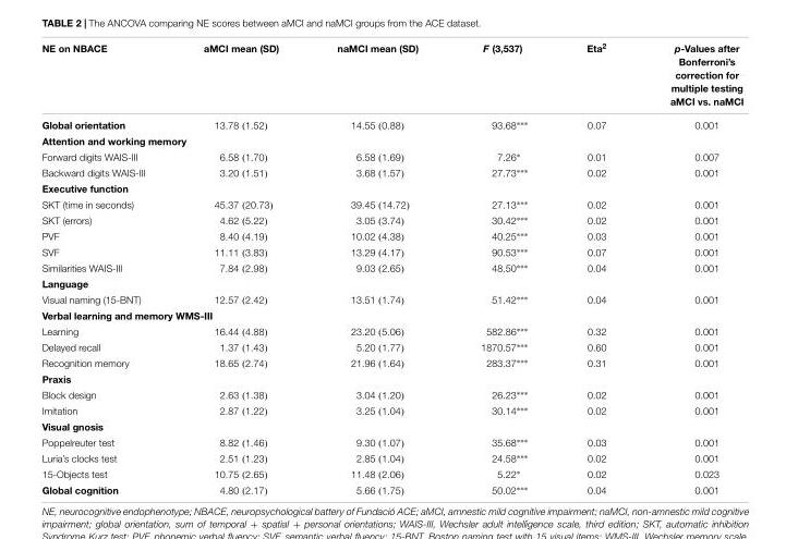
<table><thead><tr><td>NE on NBACE</td><td>aMCI mean (SD)</td><td>naMCI mean (SD)</td><td>F (3,537)</td><td>Eta<sup>2</sup></td><td>p-Values after Bonferroni’s correction for multiple testing aMCI vs. naMCI</td></tr></thead><tbody><tr><td>Global orientation</td><td>13.78 (1.52)</td><td>14.55 (0.88)</td><td>93.68∗∗∗</td><td>0.07</td><td>0.001</td></tr><tr><td colspan="6">Attention and working memory</td></tr><tr><td>Forward digits WAIS-III</td><td>6.58 (1.70)</td><td>6.58 (1.69)</td><td>7.26∗</td><td>0.01</td><td>0.007</td></tr><tr><td>Backward digits WAIS-III</td><td>3.20 (1.51)</td><td>3.68 (1.57)</td><td>27.73∗∗∗</td><td>0.02</td><td>0.001</td></tr><tr><td colspan="6">Executive function</td></tr><tr><td>SKT (time in seconds)</td><td>45.37 (20.73)</td><td>39.45 (14.72)</td><td>27.13∗∗∗</td><td>0.02</td><td>0.001</td></tr><tr><td>SKT (errors)</td><td>4.62 (5.22)</td><td>3.05 (3.74)</td><td>30.42∗∗∗</td><td>0.02</td><td>0.001</td></tr><tr><td>PVF</td><td>8.40 (4.19)</td><td>10.02 (4.38)</td><td>40.25∗∗∗</td><td>0.03</td><td>0.001</td></tr><tr><td>SVF</td><td>11.11 (3.83)</td><td>13.29 (4.17)</td><td>90.53∗∗∗</td><td>0.07</td><td>0.001</td></tr><tr><td>Similarities WAIS-III</td><td>7.84 (2.98)</td><td>9.03 (2.65)</td><td>48.50∗∗∗</td><td>0.04</td><td>0.001</td></tr><tr><td colspan="6">Language</td></tr><tr><td>Visual naming (15-BNT)</td><td>12.57 (2.42)</td><td>13.51 (1.74)</td><td>51.42∗∗∗</td><td>0.04</td><td>0.001</td></tr><tr><td colspan="6">Verbal learning and memory WMS-III</td></tr><tr><td>Learning</td><td>16.44 (4.88)</td><td>23.20 (5.06)</td><td>582.86∗∗∗</td><td>0.32</td><td>0.001</td></tr><tr><td>Delayed recall</td><td>1.37 (1.43)</td><td>5.20 (1.77)</td><td>1870.57∗∗∗</td><td>0.60</td><td>0.001</td></tr><tr><td>Recognition memory</td><td>18.65 (2.74)</td><td>21.96 (1.64)</td><td>283.37∗∗∗</td><td>0.31</td><td>0.001</td></tr><tr><td colspan="6">Praxis</td></tr><tr><td>Block design</td><td>2.63 (1.38)</td><td>3.04 (1.20)</td><td>26.23∗∗∗</td><td>0.02</td><td>0.001</td></tr><tr><td>Imitation</td><td>2.87 (1.22)</td><td>3.25 (1.04)</td><td>30.14∗∗∗</td><td>0.02</td><td>0.001</td></tr><tr><td colspan="6">Visual gnosis</td></tr><tr><td>Poppelreuter test</td><td>8.82 (1.46)</td><td>9.30 (1.07)</td><td>35.68∗∗∗</td><td>0.03</td><td>0.001</td></tr><tr><td>Luria’s clocks test</td><td>2.51 (1.23)</td><td>2.85 (1.04)</td><td>24.58∗∗∗</td><td>0.02</td><td>0.001</td></tr><tr><td>15-Objects test</td><td>10.75 (2.65)</td><td>11.48 (2.06)</td><td>5.22∗</td><td>0.02</td><td>0.023</td></tr><tr><td>Global cognition</td><td>4.80 (2.17)</td><td>5.66 (1.75)</td><td>50.02∗∗∗</td><td>0.04</td><td>0.001</td></tr></tbody></table>